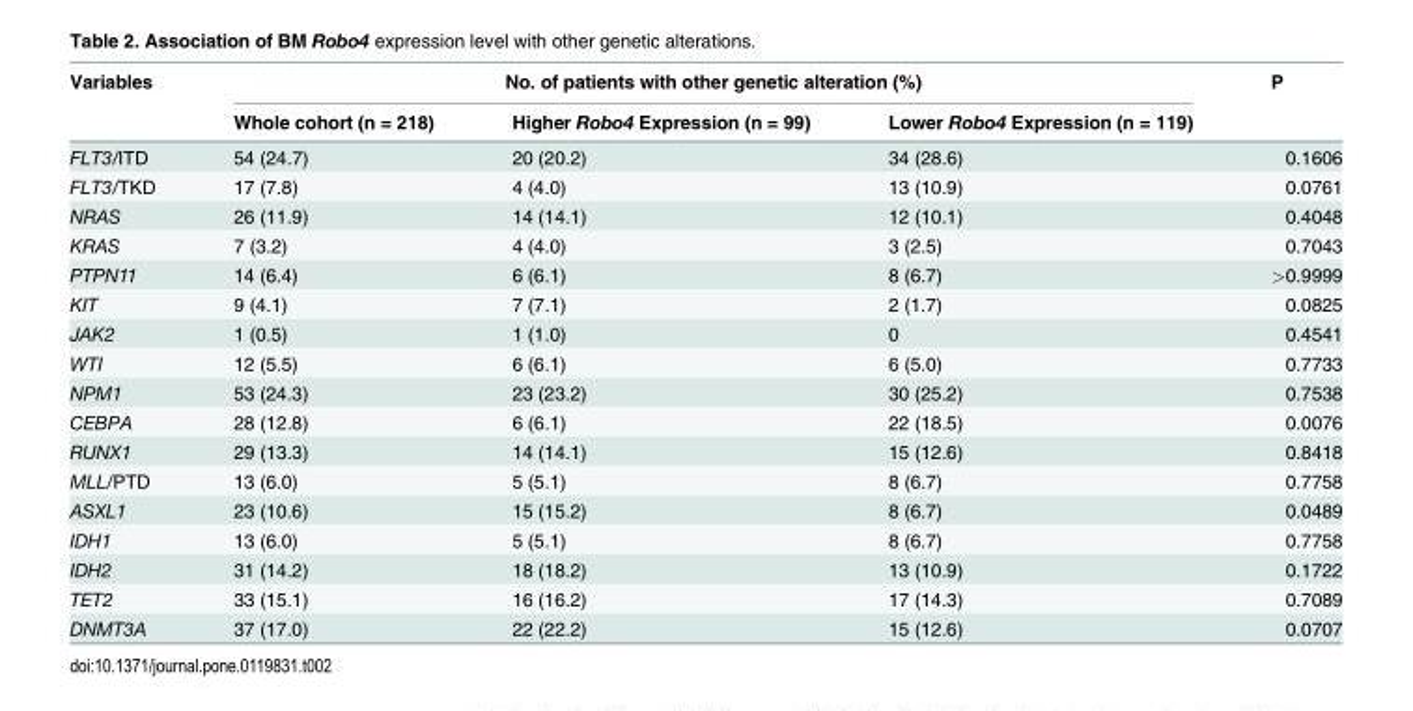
<table><thead><tr><td rowspan="2">Variables</td><td colspan="3">No. of patients with other genetic alteration (%)</td><td rowspan="2">P</td></tr><tr><td>Whole cohort (n = 218)</td><td>Higher Robo4 Expression (n = 99)</td><td>Lower Robo4 Expression (n = 119)</td></tr></thead><tbody><tr><td>FLT3/ITD</td><td>54 (24.7)</td><td>20 (20.2)</td><td>34 (28.6)</td><td>0.1606</td></tr><tr><td>FLT3/TKD</td><td>17 (7.8)</td><td>4 (4.0)</td><td>13 (10.9)</td><td>0.0761</td></tr><tr><td>NRAS</td><td>26 (11.9)</td><td>14 (14.1)</td><td>12 (10.1)</td><td>0.4048</td></tr><tr><td>KRAS</td><td>7 (3.2)</td><td>4 (4.0)</td><td>3 (2.5)</td><td>0.7043</td></tr><tr><td>PTPN11</td><td>14 (6.4)</td><td>6 (6.1)</td><td>8 (6.7)</td><td>&gt;0.9999</td></tr><tr><td>KIT</td><td>9 (4.1)</td><td>7 (7.1)</td><td>2 (1.7)</td><td>0.0825</td></tr><tr><td>JAK2</td><td>1 (0.5)</td><td>1 (1.0)</td><td>0</td><td>0.4541</td></tr><tr><td>WTI</td><td>12 (5.5)</td><td>6 (6.1)</td><td>6 (5.0)</td><td>0.7733</td></tr><tr><td>NPM1</td><td>53 (24.3)</td><td>23 (23.2)</td><td>30 (25.2)</td><td>0.7538</td></tr><tr><td>CEBPA</td><td>28 (12.8)</td><td>6 (6.1)</td><td>22 (18.5)</td><td>0.0076</td></tr><tr><td>RUNX1</td><td>29 (13.3)</td><td>14 (14.1)</td><td>15 (12.6)</td><td>0.8418</td></tr><tr><td>MLL/PTD</td><td>13 (6.0)</td><td>5 (5.1)</td><td>8 (6.7)</td><td>0.7758</td></tr><tr><td>ASXL1</td><td>23 (10.6)</td><td>15 (15.2)</td><td>8 (6.7)</td><td>0.0489</td></tr><tr><td>IDH1</td><td>13 (6.0)</td><td>5 (5.1)</td><td>8 (6.7)</td><td>0.7758</td></tr><tr><td>IDH2</td><td>31 (14.2)</td><td>18 (18.2)</td><td>13 (10.9)</td><td>0.1722</td></tr><tr><td>TET2</td><td>33 (15.1)</td><td>16 (16.2)</td><td>17 (14.3)</td><td>0.7089</td></tr><tr><td>DNMT3A</td><td>37 (17.0)</td><td>22 (22.2)</td><td>15 (12.6)</td><td>0.0707</td></tr></tbody></table>